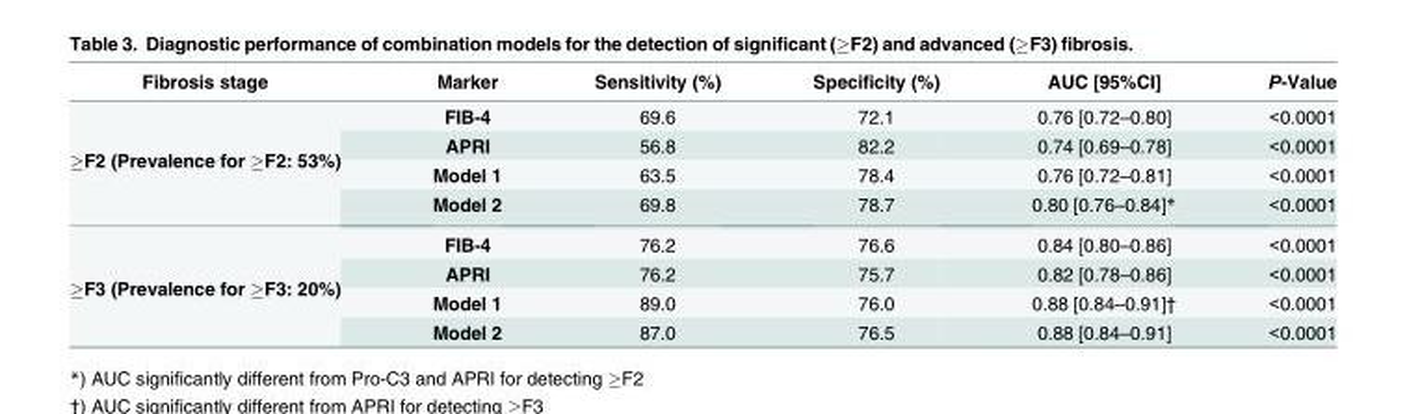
<table><thead><tr><td>Fibrosis stage</td><td>Marker</td><td>Sensitivity (%)</td><td>Specificity (%)</td><td>AUC [95%CI]</td><td>P-Value</td></tr></thead><tbody><tr><td rowspan="4">≥F2 (Prevalence for ≥F2: 53%)</td><td>FIB-4</td><td>69.6</td><td>72.1</td><td>0.76 [0.72–0.80]</td><td>&lt;0.0001</td></tr><tr><td>APRI</td><td>56.8</td><td>82.2</td><td>0.74 [0.69–0.78]</td><td>&lt;0.0001</td></tr><tr><td>Model 1</td><td>63.5</td><td>78.4</td><td>0.76 [0.72–0.81]</td><td>&lt;0.0001</td></tr><tr><td>Model 2</td><td>69.8</td><td>78.7</td><td>0.80 [0.76–0.84]*</td><td>&lt;0.0001</td></tr><tr><td rowspan="4">≥F3 (Prevalence for ≥F3: 20%)</td><td>FIB-4</td><td>76.2</td><td>76.6</td><td>0.84 [0.80–0.86]</td><td>&lt;0.0001</td></tr><tr><td>APRI</td><td>76.2</td><td>75.7</td><td>0.82 [0.78–0.86]</td><td>&lt;0.0001</td></tr><tr><td>Model 1</td><td>89.0</td><td>76.0</td><td>0.88 [0.84–0.91]†</td><td>&lt;0.0001</td></tr><tr><td>Model 2</td><td>87.0</td><td>76.5</td><td>0.88 [0.84–0.91]</td><td>&lt;0.0001</td></tr></tbody></table>